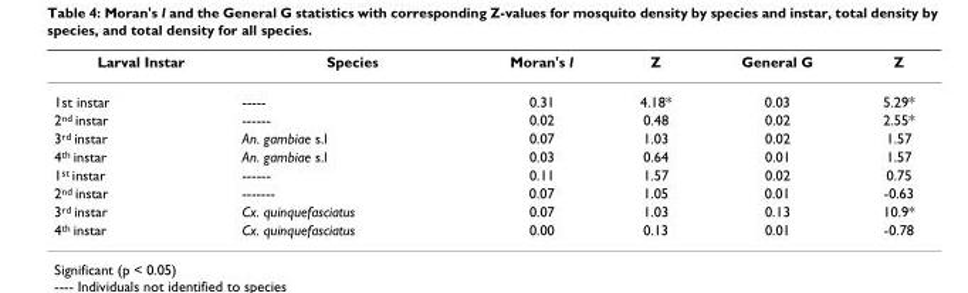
<table><thead><tr><td>Larval Instar</td><td>Species</td><td>Moran&#x27;s I</td><td>Z</td><td>General G</td><td>Z</td></tr></thead><tbody><tr><td>1st instar</td><td>-----</td><td>0.31</td><td>4.18*</td><td>0.03</td><td>5.29*</td></tr><tr><td>2<sup>nd</sup> instar</td><td>------</td><td>0.02</td><td>0.48</td><td>0.02</td><td>2.55*</td></tr><tr><td>3<sup>rd</sup> instar</td><td>An. gambiae s.l</td><td>0.07</td><td>1.03</td><td>0.02</td><td>1.57</td></tr><tr><td>4<sup>th</sup> instar</td><td>An. gambiae s.l</td><td>0.03</td><td>0.64</td><td>0.01</td><td>1.57</td></tr><tr><td>1<sup>st</sup> instar</td><td>------</td><td>0.11</td><td>1.57</td><td>0.02</td><td>0.75</td></tr><tr><td>2<sup>nd</sup> instar</td><td>-------</td><td>0.07</td><td>1.05</td><td>0.01</td><td>-0.63</td></tr><tr><td>3<sup>rd</sup> instar</td><td>Cx. quinquefasciatus</td><td>0.07</td><td>1.03</td><td>0.13</td><td>10.9*</td></tr><tr><td>4<sup>th</sup> instar</td><td>Cx. quinquefasciatus</td><td>0.00</td><td>0.13</td><td>0.01</td><td>-0.78</td></tr></tbody></table>